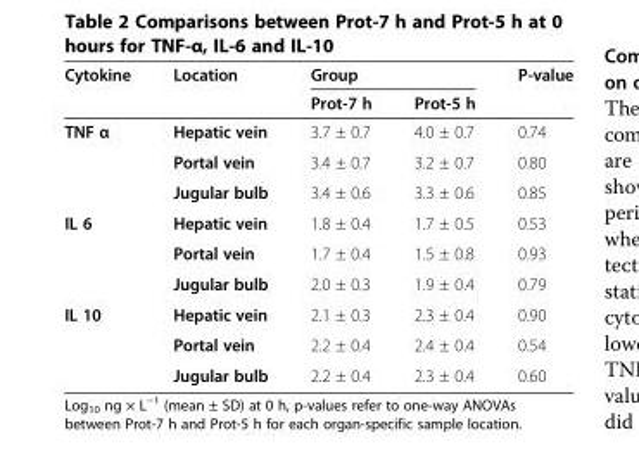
<table><thead><tr><td rowspan="2">Cytokine</td><td rowspan="2">Location</td><td colspan="2">Group</td><td rowspan="2">P-value</td></tr><tr><td>Prot-7 h</td><td>Prot-5 h</td></tr></thead><tbody><tr><td rowspan="3">TNF α</td><td>Hepatic vein</td><td>3.7 ± 0.7</td><td>4.0 ± 0.7</td><td>0.74</td></tr><tr><td>Portal vein</td><td>3.4 ± 0.7</td><td>3.2 ± 0.7</td><td>0.80</td></tr><tr><td>Jugular bulb</td><td>3.4 ± 0.6</td><td>3.3 ± 0.6</td><td>0.85</td></tr><tr><td rowspan="3">IL 6</td><td>Hepatic vein</td><td>1.8 ± 0.4</td><td>1.7 ± 0.5</td><td>0.53</td></tr><tr><td>Portal vein</td><td>1.7 ± 0.4</td><td>1.5 ± 0.8</td><td>0.93</td></tr><tr><td>Jugular bulb</td><td>2.0 ± 0.3</td><td>1.9 ± 0.4</td><td>0.79</td></tr><tr><td rowspan="3">IL 10</td><td>Hepatic vein</td><td>2.1 ± 0.3</td><td>2.3 ± 0.4</td><td>0.90</td></tr><tr><td>Portal vein</td><td>2.2 ± 0.4</td><td>2.4 ± 0.4</td><td>0.54</td></tr><tr><td>Jugular bulb</td><td>2.2 ± 0.4</td><td>2.3 ± 0.4</td><td>0.60</td></tr></tbody></table>